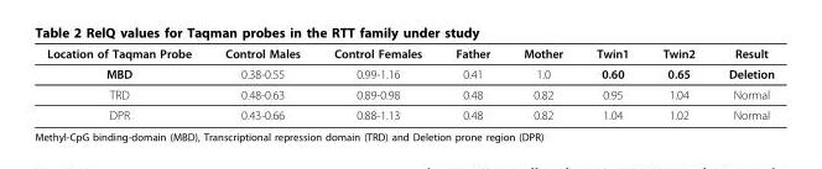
<table><thead><tr><td>Location of Taqman Probe</td><td>Control Males</td><td>Control Females</td><td>Father</td><td>Mother</td><td>Twin1</td><td>Twin2</td><td>Result</td></tr></thead><tbody><tr><td>MBD</td><td>0.38-0.55</td><td>0.99-1.16</td><td>0.41</td><td>1.0</td><td>0.60</td><td>0.65</td><td>Deletion</td></tr><tr><td>TRD</td><td>0.48-0.63</td><td>0.89-0.98</td><td>0.48</td><td>0.82</td><td>0.95</td><td>1.04</td><td>Normal</td></tr><tr><td>DPR</td><td>0.43-0.66</td><td>0.88-1.13</td><td>0.48</td><td>0.82</td><td>1.04</td><td>1.02</td><td>Normal</td></tr></tbody></table>